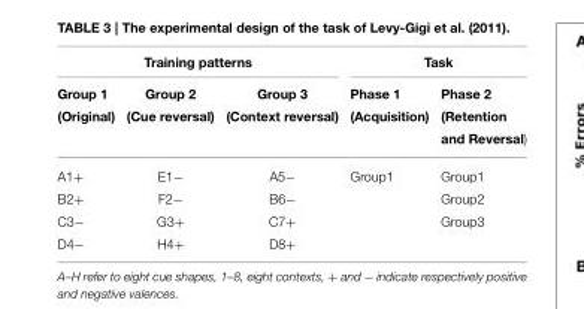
<table><thead><tr><td colspan="3">Training patterns</td><td colspan="2">Task</td></tr><tr><td>Group 1 (Original)</td><td>Group 2 (Cue reversal)</td><td>Group 3 (Context reversal)</td><td>Phase 1 (Acquisition)</td><td>Phase 2 (Retention and Reversal)</td></tr></thead><tbody><tr><td>A1+</td><td>E1−</td><td>A5−</td><td>Group1</td><td>Group1</td></tr><tr><td>B2+</td><td>F2−</td><td>B6−</td><td></td><td>Group2</td></tr><tr><td>C3−</td><td>G3+</td><td>C7+</td><td></td><td>Group3</td></tr><tr><td>D4−</td><td>H4+</td><td>D8+</td><td></td><td></td></tr></tbody></table>